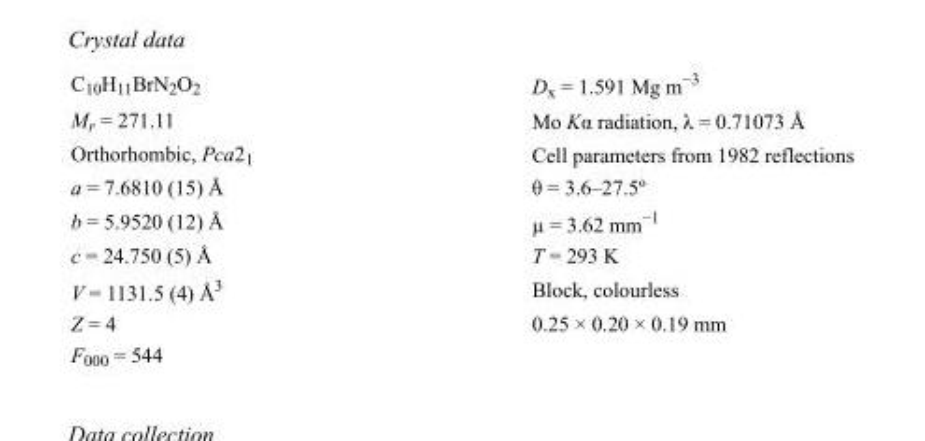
<table><tbody><tr><td>C<sub>10</sub>H<sub>11</sub>BrN<sub>2</sub>O<sub>2</sub></td><td>D<sub>x</sub> = 1.591 Mg m<sup>−3</sup></td></tr><tr><td>M<sub>r</sub> = 271.11</td><td>Mo Kα radiation, λ = 0.71073 Å</td></tr><tr><td>Orthorhombic, Pca2<sub>1</sub></td><td>Cell parameters from 1982 reflections</td></tr><tr><td>a = 7.6810 (15) Å</td><td>θ = 3.6–27.5º</td></tr><tr><td>b = 5.9520 (12) Å</td><td>µ = 3.62 mm<sup>−1</sup></td></tr><tr><td>c = 24.750 (5) Å</td><td>T = 293 K</td></tr><tr><td>V = 1131.5 (4) Å<sup>3</sup></td><td>Block, colourless</td></tr><tr><td>Z = 4</td><td>0.25 × 0.20 × 0.19 mm</td></tr><tr><td>F000 = 544</td><td></td></tr></tbody></table>